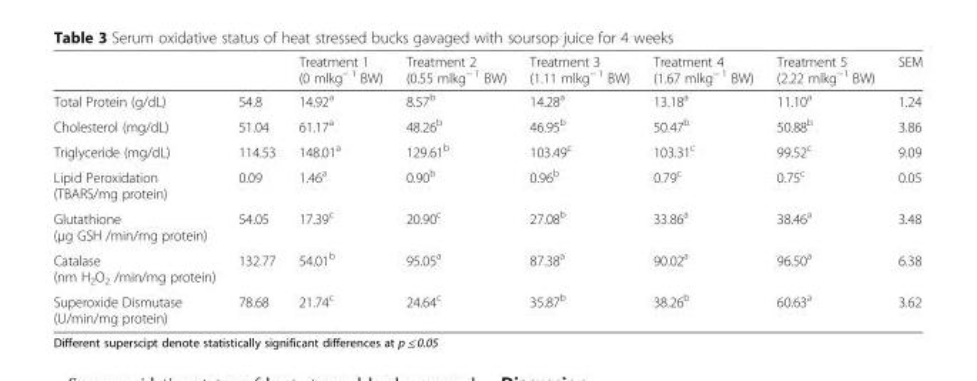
<table><thead><tr><td></td><td></td><td>Treatment 1 (0 mlkg<sup>− 1</sup> BW)</td><td>Treatment 2 (0.55 mlkg<sup>− 1</sup> BW)</td><td>Treatment 3 (1.11 mlkg<sup>− 1</sup> BW)</td><td>Treatment 4 (1.67 mlkg<sup>− 1</sup> BW)</td><td>Treatment 5 (2.22 mlkg<sup>−1</sup> BW)</td><td>SEM</td></tr></thead><tbody><tr><td>Total Protein (g/dL)</td><td>54.8</td><td>14.92<sup>a</sup></td><td>8.57<sup>b</sup></td><td>14.28<sup>a</sup></td><td>13.18<sup>a</sup></td><td>11.10<sup>a</sup></td><td>1.24</td></tr><tr><td>Cholesterol (mg/dL)</td><td>51.04</td><td>61.17<sup>a</sup></td><td>48.26<sup>b</sup></td><td>46.95<sup>b</sup></td><td>50.47<sup>b</sup></td><td>50.88<sup>b</sup></td><td>3.86</td></tr><tr><td>Triglyceride (mg/dL)</td><td>114.53</td><td>148.01<sup>a</sup></td><td>129.61<sup>b</sup></td><td>103.49<sup>c</sup></td><td>103.31<sup>c</sup></td><td>99.52<sup>c</sup></td><td>9.09</td></tr><tr><td>Lipid Peroxidation (TBARS/mg protein)</td><td>0.09</td><td>1.46<sup>a</sup></td><td>0.90<sup>b</sup></td><td>0.96<sup>b</sup></td><td>0.79<sup>c</sup></td><td>0.75<sup>c</sup></td><td>0.05</td></tr><tr><td>Glutathione (μg GSH /min/mg protein)</td><td>54.05</td><td>17.39<sup>c</sup></td><td>20.90<sup>c</sup></td><td>27.08<sup>b</sup></td><td>33.86<sup>a</sup></td><td>38.46<sup>a</sup></td><td>3.48</td></tr><tr><td>Catalase (nm H<sub>2</sub>O<sub>2</sub> /min/mg protein)</td><td>132.77</td><td>54.01<sup>b</sup></td><td>95.05<sup>a</sup></td><td>87.38<sup>a</sup></td><td>90.02<sup>a</sup></td><td>96.50<sup>a</sup></td><td>6.38</td></tr><tr><td>Superoxide Dismutase (U/min/mg protein)</td><td>78.68</td><td>21.74<sup>c</sup></td><td>24.64<sup>c</sup></td><td>35.87<sup>b</sup></td><td>38.26<sup>b</sup></td><td>60.63<sup>a</sup></td><td>3.62</td></tr></tbody></table>